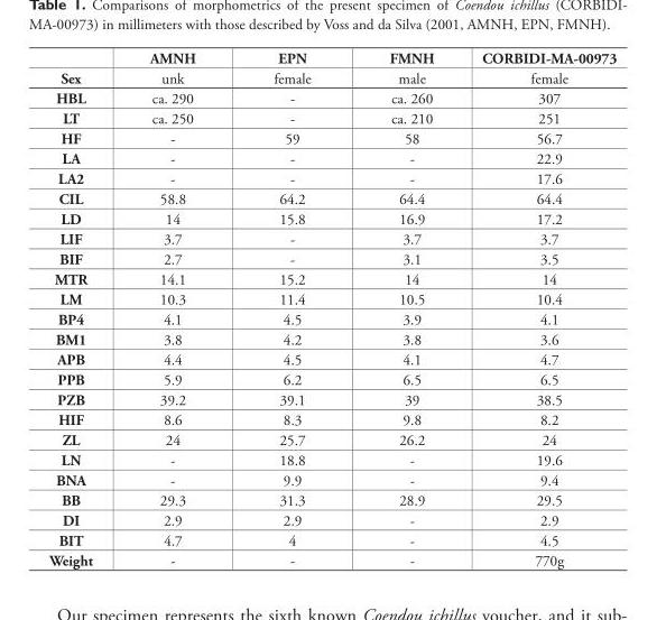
<table><thead><tr><td rowspan="2">Sex</td><td rowspan="2">AMNH unk</td><td rowspan="2">EPN female</td><td rowspan="2">FMNH male</td><td rowspan="2">CORBIDI-MA-00973 female</td></tr><tr></tr></thead><tbody><tr><td>HBL</td><td>ca. 290</td><td>-</td><td>ca. 260</td><td>307</td></tr><tr><td>LT</td><td>ca. 250</td><td>-</td><td>ca. 210</td><td>251</td></tr><tr><td>HF</td><td>-</td><td>59</td><td>58</td><td>56.7</td></tr><tr><td>LA</td><td>-</td><td>-</td><td>-</td><td>22.9</td></tr><tr><td>LA2</td><td>-</td><td>-</td><td>-</td><td>17.6</td></tr><tr><td>CIL</td><td>58.8</td><td>64.2</td><td>64.4</td><td>64.4</td></tr><tr><td>LD</td><td>14</td><td>15.8</td><td>16.9</td><td>17.2</td></tr><tr><td>LIF</td><td>3.7</td><td>-</td><td>3.7</td><td>3.7</td></tr><tr><td>BIF</td><td>2.7</td><td>-</td><td>3.1</td><td>3.5</td></tr><tr><td>MTR</td><td>14.1</td><td>15.2</td><td>14</td><td>14</td></tr><tr><td>LM</td><td>10.3</td><td>11.4</td><td>10.5</td><td>10.4</td></tr><tr><td>BP4</td><td>4.1</td><td>4.5</td><td>3.9</td><td>4.1</td></tr><tr><td>BM1</td><td>3.8</td><td>4.2</td><td>3.8</td><td>3.6</td></tr><tr><td>APB</td><td>4.4</td><td>4.5</td><td>4.1</td><td>4.7</td></tr><tr><td>PPB</td><td>5.9</td><td>6.2</td><td>6.5</td><td>6.5</td></tr><tr><td>PZB</td><td>39.2</td><td>39.1</td><td>39</td><td>38.5</td></tr><tr><td>HIF</td><td>8.6</td><td>8.3</td><td>9.8</td><td>8.2</td></tr><tr><td>ZL</td><td>24</td><td>25.7</td><td>26.2</td><td>24</td></tr><tr><td>LN</td><td>-</td><td>18.8</td><td>-</td><td>19.6</td></tr><tr><td>BNA</td><td>-</td><td>9.9</td><td>-</td><td>9.4</td></tr><tr><td>BB</td><td>29.3</td><td>31.3</td><td>28.9</td><td>29.5</td></tr><tr><td>DI</td><td>2.9</td><td>2.9</td><td>-</td><td>2.9</td></tr><tr><td>BIT</td><td>4.7</td><td>4</td><td>-</td><td>4.5</td></tr><tr><td>Weight</td><td>-</td><td>-</td><td>-</td><td>770g</td></tr></tbody></table>